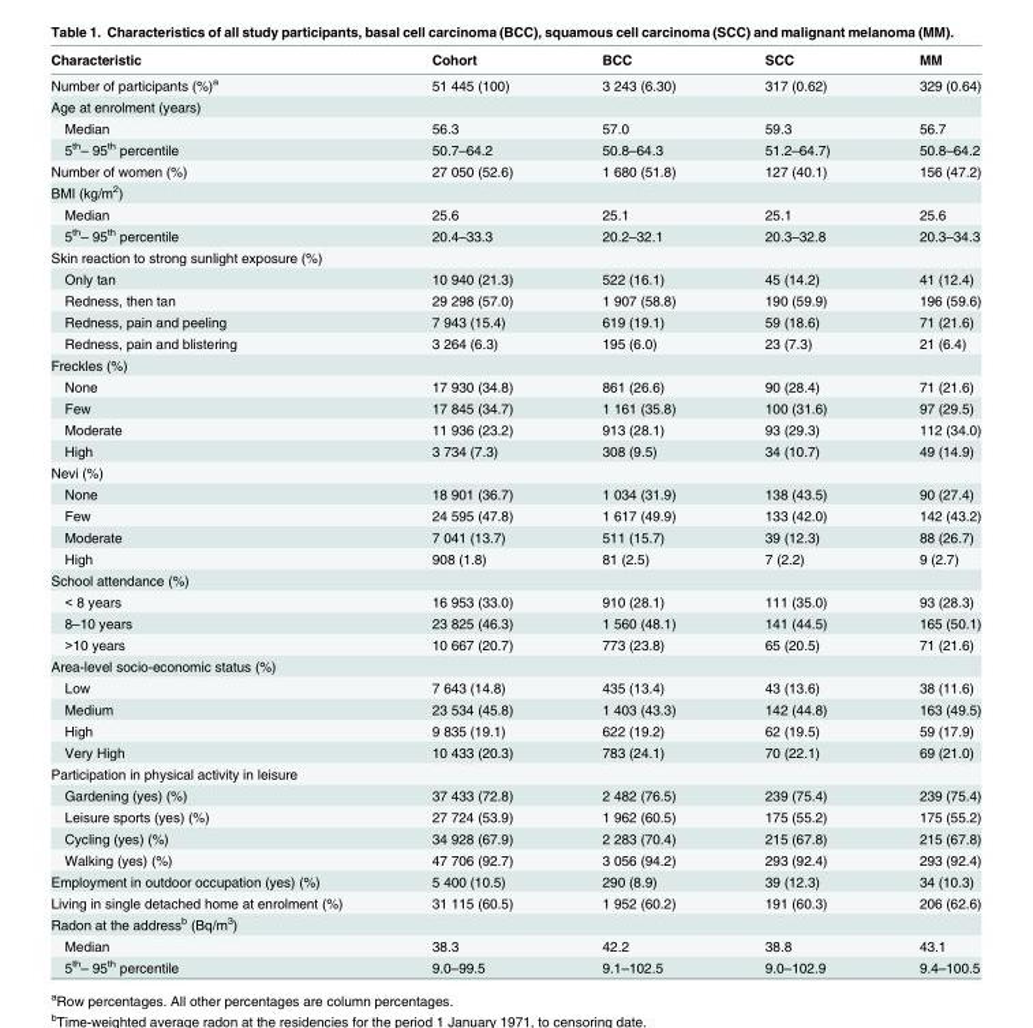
<table><thead><tr><td>Characteristic</td><td>Cohort</td><td>BCC</td><td>SCC</td><td>MM</td></tr></thead><tbody><tr><td>Number of participants (%)<sup>a</sup></td><td>51 445 (100)</td><td>3 243 (6.30)</td><td>317 (0.62)</td><td>329 (0.64)</td></tr><tr><td colspan="5">Age at enrolment (years)</td></tr><tr><td>Median</td><td>56.3</td><td>57.0</td><td>59.3</td><td>56.7</td></tr><tr><td>5<sup>th</sup>– 95<sup>th</sup> percentile</td><td>50.7–64.2</td><td>50.8–64.3</td><td>51.2–64.7)</td><td>50.8–64.2</td></tr><tr><td>Number of women (%)</td><td>27 050 (52.6)</td><td>1 680 (51.8)</td><td>127 (40.1)</td><td>156 (47.2)</td></tr><tr><td colspan="5">BMI (kg/m<sup>2</sup>)</td></tr><tr><td>Median</td><td>25.6</td><td>25.1</td><td>25.1</td><td>25.6</td></tr><tr><td>5<sup>th</sup>– 95<sup>th</sup> percentile</td><td>20.4–33.3</td><td>20.2–32.1</td><td>20.3–32.8</td><td>20.3–34.3</td></tr><tr><td colspan="5">Skin reaction to strong sunlight exposure (%)</td></tr><tr><td>Only tan</td><td>10 940 (21.3)</td><td>522 (16.1)</td><td>45 (14.2)</td><td>41 (12.4)</td></tr><tr><td>Redness, then tan</td><td>29 298 (57.0)</td><td>1 907 (58.8)</td><td>190 (59.9)</td><td>196 (59.6)</td></tr><tr><td>Redness, pain and peeling</td><td>7 943 (15.4)</td><td>619 (19.1)</td><td>59 (18.6)</td><td>71 (21.6)</td></tr><tr><td>Redness, pain and blistering</td><td>3 264 (6.3)</td><td>195 (6.0)</td><td>23 (7.3)</td><td>21 (6.4)</td></tr><tr><td colspan="5">Freckles (%)</td></tr><tr><td>None</td><td>17 930 (34.8)</td><td>861 (26.6)</td><td>90 (28.4)</td><td>71 (21.6)</td></tr><tr><td>Few</td><td>17 845 (34.7)</td><td>1 161 (35.8)</td><td>100 (31.6)</td><td>97 (29.5)</td></tr><tr><td>Moderate</td><td>11 936 (23.2)</td><td>913 (28.1)</td><td>93 (29.3)</td><td>112 (34.0)</td></tr><tr><td>High</td><td>3 734 (7.3)</td><td>308 (9.5)</td><td>34 (10.7)</td><td>49 (14.9)</td></tr><tr><td colspan="5">Nevi (%)</td></tr><tr><td>None</td><td>18 901 (36.7)</td><td>1 034 (31.9)</td><td>138 (43.5)</td><td>90 (27.4)</td></tr><tr><td>Few</td><td>24 595 (47.8)</td><td>1 617 (49.9)</td><td>133 (42.0)</td><td>142 (43.2)</td></tr><tr><td>Moderate</td><td>7 041 (13.7)</td><td>511 (15.7)</td><td>39 (12.3)</td><td>88 (26.7)</td></tr><tr><td>High</td><td>908 (1.8)</td><td>81 (2.5)</td><td>7 (2.2)</td><td>9 (2.7)</td></tr><tr><td colspan="5">School attendance (%)</td></tr><tr><td>&lt; 8 years</td><td>16 953 (33.0)</td><td>910 (28.1)</td><td>111 (35.0)</td><td>93 (28.3)</td></tr><tr><td>8–10 years</td><td>23 825 (46.3)</td><td>1 560 (48.1)</td><td>141 (44.5)</td><td>165 (50.1)</td></tr><tr><td>&gt;10 years</td><td>10 667 (20.7)</td><td>773 (23.8)</td><td>65 (20.5)</td><td>71 (21.6)</td></tr><tr><td colspan="5">Area-level socio-economic status (%)</td></tr><tr><td>Low</td><td>7 643 (14.8)</td><td>435 (13.4)</td><td>43 (13.6)</td><td>38 (11.6)</td></tr><tr><td>Medium</td><td>23 534 (45.8)</td><td>1 403 (43.3)</td><td>142 (44.8)</td><td>163 (49.5)</td></tr><tr><td>High</td><td>9 835 (19.1)</td><td>622 (19.2)</td><td>62 (19.5)</td><td>59 (17.9)</td></tr><tr><td>Very High</td><td>10 433 (20.3)</td><td>783 (24.1)</td><td>70 (22.1)</td><td>69 (21.0)</td></tr><tr><td colspan="5">Participation in physical activity in leisure</td></tr><tr><td>Gardening (yes) (%)</td><td>37 433 (72.8)</td><td>2 482 (76.5)</td><td>239 (75.4)</td><td>239 (75.4)</td></tr><tr><td>Leisure sports (yes) (%)</td><td>27 724 (53.9)</td><td>1 962 (60.5)</td><td>175 (55.2)</td><td>175 (55.2)</td></tr><tr><td>Cycling (yes) (%)</td><td>34 928 (67.9)</td><td>2 283 (70.4)</td><td>215 (67.8)</td><td>215 (67.8)</td></tr><tr><td>Walking (yes) (%)</td><td>47 706 (92.7)</td><td>3 056 (94.2)</td><td>293 (92.4)</td><td>293 (92.4)</td></tr><tr><td>Employment in outdoor occupation (yes) (%)</td><td>5 400 (10.5)</td><td>290 (8.9)</td><td>39 (12.3)</td><td>34 (10.3)</td></tr><tr><td>Living in single detached home at enrolment (%)</td><td>31 115 (60.5)</td><td>1 952 (60.2)</td><td>191 (60.3)</td><td>206 (62.6)</td></tr><tr><td colspan="5">Radon at the address<sup>b</sup> (Bq/m<sup>3</sup>)</td></tr><tr><td>Median</td><td>38.3</td><td>42.2</td><td>38.8</td><td>43.1</td></tr><tr><td>5<sup>th</sup>– 95<sup>th</sup> percentile</td><td>9.0–99.5</td><td>9.1–102.5</td><td>9.0–102.9</td><td>9.4–100.5</td></tr></tbody></table>